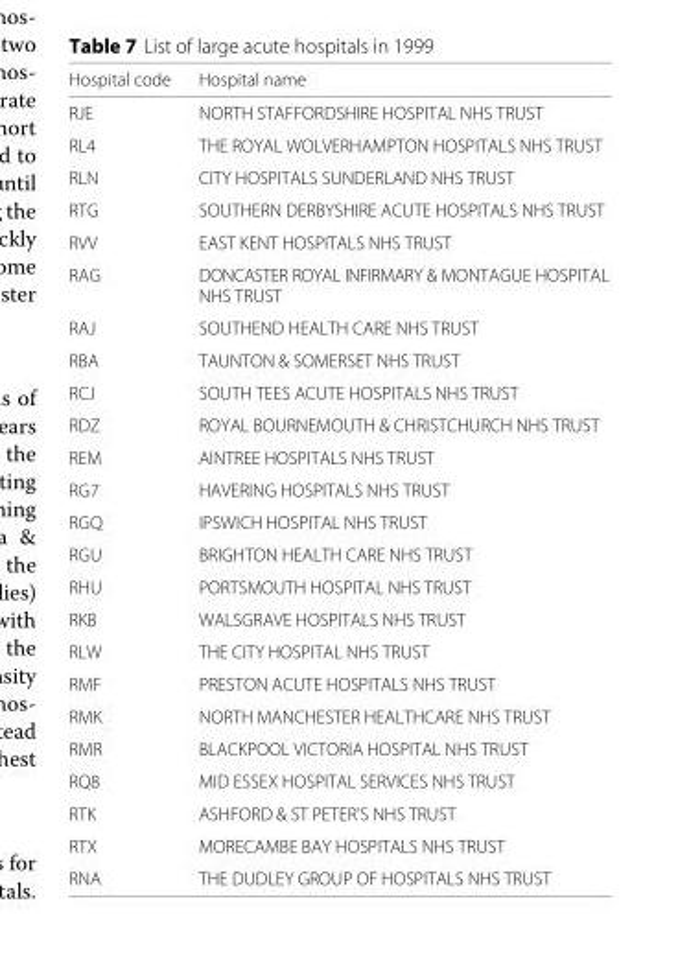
<table><thead><tr><td>Hospital code</td><td>Hospital name</td></tr></thead><tbody><tr><td>RJE</td><td>NORTH STAFFORDSHIRE HOSPITAL NHS TRUST</td></tr><tr><td>RL4</td><td>THE ROYAL WOLVERHAMPTON HOSPITALS NHS TRUST</td></tr><tr><td>RLN</td><td>CITY HOSPITALS SUNDERLAND NHS TRUST</td></tr><tr><td>RTG</td><td>SOUTHERN DERBYSHIRE ACUTE HOSPITALS NHS TRUST</td></tr><tr><td>RVV</td><td>EAST KENT HOSPITALS NHS TRUST</td></tr><tr><td>RAG</td><td>DONCASTER ROYAL INFIRMARY &amp; MONTAGUE HOSPITAL NHS TRUST</td></tr><tr><td>RAJ</td><td>SOUTHEND HEALTH CARE NHS TRUST</td></tr><tr><td>RBA</td><td>TAUNTON &amp; SOMERSET NHS TRUST</td></tr><tr><td>RCJ</td><td>SOUTH TEES ACUTE HOSPITALS NHS TRUST</td></tr><tr><td>RDZ</td><td>ROYAL BOURNEMOUTH &amp; CHRISTCHURCH NHS TRUST</td></tr><tr><td>REM</td><td>AINTREE HOSPITALS NHS TRUST</td></tr><tr><td>RG7</td><td>HAVERING HOSPITALS NHS TRUST</td></tr><tr><td>RGQ</td><td>IPSWICH HOSPITAL NHS TRUST</td></tr><tr><td>RGU</td><td>BRIGHTON HEALTH CARE NHS TRUST</td></tr><tr><td>RHU</td><td>PORTSMOUTH HOSPITAL NHS TRUST</td></tr><tr><td>RKB</td><td>WALSGRAVE HOSPITALS NHS TRUST</td></tr><tr><td>RLW</td><td>THE CITY HOSPITAL NHS TRUST</td></tr><tr><td>RMF</td><td>PRESTON ACUTE HOSPITALS NHS TRUST</td></tr><tr><td>RMK</td><td>NORTH MANCHESTER HEALTHCARE NHS TRUST</td></tr><tr><td>RMR</td><td>BLACKPOOL VICTORIA HOSPITAL NHS TRUST</td></tr><tr><td>RQ8</td><td>MID ESSEX HOSPITAL SERVICES NHS TRUST</td></tr><tr><td>RTK</td><td>ASHFORD &amp; ST PETER’S NHS TRUST</td></tr><tr><td>RTX</td><td>MORECAMBE BAY HOSPITALS NHS TRUST</td></tr><tr><td>RNA</td><td>THE DUDLEY GROUP OF HOSPITALS NHS TRUST</td></tr></tbody></table>